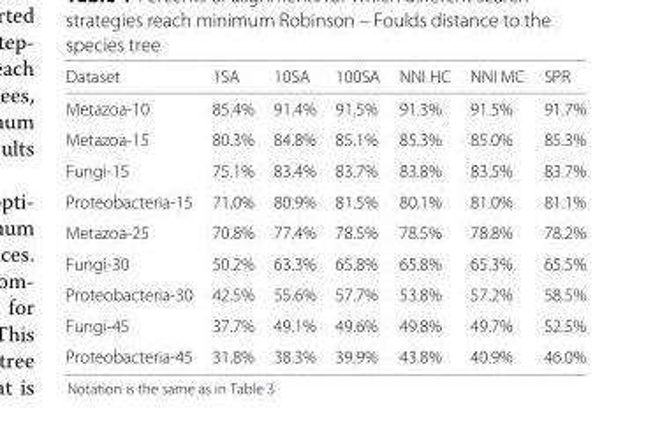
<table><thead><tr><td>Dataset</td><td>1SA</td><td>10SA</td><td>100SA</td><td>NNI HC</td><td>NNI MC</td><td>SPR</td></tr></thead><tbody><tr><td>Metazoa-10</td><td>85.4%</td><td>91.4%</td><td>91.5%</td><td>91.3%</td><td>91.5%</td><td>91.7%</td></tr><tr><td>Metazoa-15</td><td>80.3%</td><td>84.8%</td><td>85.1%</td><td>85.3%</td><td>85.0%</td><td>85.3%</td></tr><tr><td>Fungi-15</td><td>75.1%</td><td>83.4%</td><td>83.7%</td><td>83.8%</td><td>83.5%</td><td>83.7%</td></tr><tr><td>Proteobacteria-15</td><td>71.0%</td><td>80.9%</td><td>81.5%</td><td>80.1%</td><td>81.0%</td><td>81.1%</td></tr><tr><td>Metazoa-25</td><td>70.8%</td><td>77.4%</td><td>78.5%</td><td>78.5%</td><td>78.8%</td><td>78.2%</td></tr><tr><td>Fungi-30</td><td>50.2%</td><td>63.3%</td><td>65.8%</td><td>65.8%</td><td>65.3%</td><td>65.5%</td></tr><tr><td>Proteobacteria-30</td><td>42.5%</td><td>55.6%</td><td>57.7%</td><td>53.8%</td><td>57.2%</td><td>58.5%</td></tr><tr><td>Fungi-45</td><td>37.7%</td><td>49.1%</td><td>49.6%</td><td>49.8%</td><td>49.7%</td><td>52.5%</td></tr><tr><td>Proteobacteria-45</td><td>31.8%</td><td>38.3%</td><td>39.9%</td><td>43.8%</td><td>40.9%</td><td>46.0%</td></tr></tbody></table>